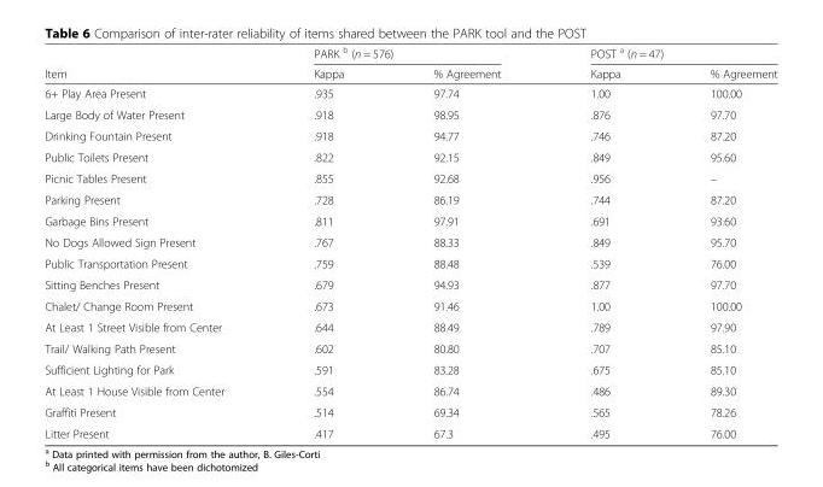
<table><thead><tr><td rowspan="2">Item</td><td colspan="2">PARK <sup>b</sup> (n = 576)</td><td colspan="2">POST <sup>a</sup> (n = 47)</td></tr><tr><td>Kappa</td><td>% Agreement</td><td>Kappa</td><td>% Agreement</td></tr></thead><tbody><tr><td>6+ Play Area Present</td><td>.935</td><td>97.74</td><td>1.00</td><td>100.00</td></tr><tr><td>Large Body of Water Present</td><td>.918</td><td>98.95</td><td>.876</td><td>97.70</td></tr><tr><td>Drinking Fountain Present</td><td>.918</td><td>94.77</td><td>.746</td><td>87.20</td></tr><tr><td>Public Toilets Present</td><td>.822</td><td>92.15</td><td>.849</td><td>95.60</td></tr><tr><td>Picnic Tables Present</td><td>.855</td><td>92.68</td><td>.956</td><td>–</td></tr><tr><td>Parking Present</td><td>.728</td><td>86.19</td><td>.744</td><td>87.20</td></tr><tr><td>Garbage Bins Present</td><td>.811</td><td>97.91</td><td>.691</td><td>93.60</td></tr><tr><td>No Dogs Allowed Sign Present</td><td>.767</td><td>88.33</td><td>.849</td><td>95.70</td></tr><tr><td>Public Transportation Present</td><td>.759</td><td>88.48</td><td>.539</td><td>76.00</td></tr><tr><td>Sitting Benches Present</td><td>.679</td><td>94.93</td><td>.877</td><td>97.70</td></tr><tr><td>Chalet/ Change Room Present</td><td>.673</td><td>91.46</td><td>1.00</td><td>100.00</td></tr><tr><td>At Least 1 Street Visible from Center</td><td>.644</td><td>88.49</td><td>.789</td><td>97.90</td></tr><tr><td>Trail/ Walking Path Present</td><td>.602</td><td>80.80</td><td>.707</td><td>85.10</td></tr><tr><td>Sufficient Lighting for Park</td><td>.591</td><td>83.28</td><td>.675</td><td>85.10</td></tr><tr><td>At Least 1 House Visible from Center</td><td>.554</td><td>86.74</td><td>.486</td><td>89.30</td></tr><tr><td>Graffiti Present</td><td>.514</td><td>69.34</td><td>.565</td><td>78.26</td></tr><tr><td>Litter Present</td><td>.417</td><td>67.3</td><td>.495</td><td>76.00</td></tr></tbody></table>